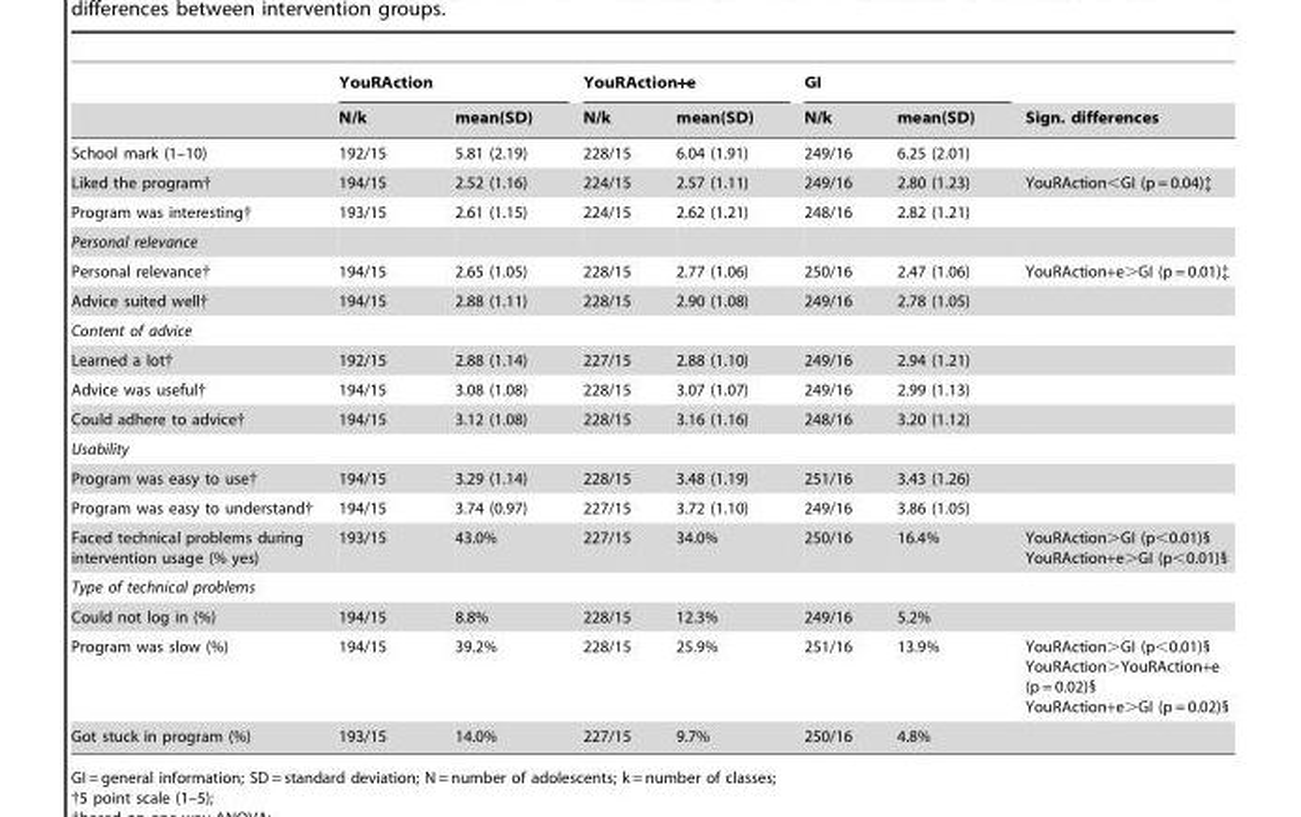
<table><thead><tr><td rowspan="2"></td><td colspan="2">YouRAction</td><td colspan="2">YouRAction+e</td><td colspan="2">GI</td><td rowspan="2">Sign. differences</td></tr><tr><td>N/k</td><td>mean(SD)</td><td>N/k</td><td>mean(SD)</td><td>N/k</td><td>mean(SD)</td></tr></thead><tbody><tr><td>School mark (1–10)</td><td>192/15</td><td>5.81 (2.19)</td><td>228/15</td><td>6.04 (1.91)</td><td>249/16</td><td>6.25 (2.01)</td><td></td></tr><tr><td>Liked the program†</td><td>194/15</td><td>2.52 (1.16)</td><td>224/15</td><td>2.57 (1.11)</td><td>249/16</td><td>2.80 (1.23)</td><td>YouRAction&lt;GI (p = 0.04)‡</td></tr><tr><td>Program was interesting†</td><td>193/15</td><td>2.61 (1.15)</td><td>224/15</td><td>2.62 (1.21)</td><td>248/16</td><td>2.82 (1.21)</td><td></td></tr><tr><td colspan="8">Personal relevance</td></tr><tr><td>Personal relevance†</td><td>194/15</td><td>2.65 (1.05)</td><td>228/15</td><td>2.77 (1.06)</td><td>250/16</td><td>2.47 (1.06)</td><td>YouRAction+e&gt;GI (p = 0.01)‡</td></tr><tr><td>Advice suited well†</td><td>194/15</td><td>2.88 (1.11)</td><td>228/15</td><td>2.90 (1.08)</td><td>249/16</td><td>2.78 (1.05)</td><td></td></tr><tr><td colspan="8">Content of advice</td></tr><tr><td>Learned a lot†</td><td>192/15</td><td>2.88 (1.14)</td><td>227/15</td><td>2.88 (1.10)</td><td>249/16</td><td>2.94 (1.21)</td><td></td></tr><tr><td>Advice was useful†</td><td>194/15</td><td>3.08 (1.08)</td><td>228/15</td><td>3.07 (1.07)</td><td>249/16</td><td>2.99 (1.13)</td><td></td></tr><tr><td>Could adhere to advice†</td><td>194/15</td><td>3.12 (1.08)</td><td>228/15</td><td>3.16 (1.16)</td><td>248/16</td><td>3.20 (1.12)</td><td></td></tr><tr><td colspan="8">Usability</td></tr><tr><td>Program was easy to use†</td><td>194/15</td><td>3.29 (1.14)</td><td>228/15</td><td>3.48 (1.19)</td><td>251/16</td><td>3.43 (1.26)</td><td></td></tr><tr><td>Program was easy to understand†</td><td>194/15</td><td>3.74 (0.97)</td><td>227/15</td><td>3.72 (1.10)</td><td>249/16</td><td>3.86 (1.05)</td><td></td></tr><tr><td>Faced technical problems during intervention usage (% yes)</td><td>193/15</td><td>43.0%</td><td>227/15</td><td>34.0%</td><td>250/16</td><td>16.4%</td><td>YouRAction&gt;GI (p&lt;0.01)§ YouRAction+e&gt;GI (p&lt;0.01)§</td></tr><tr><td colspan="8">Type of technical problems</td></tr><tr><td>Could not log in (%)</td><td>194/15</td><td>8.8%</td><td>228/15</td><td>12.3%</td><td>249/16</td><td>5.2%</td><td></td></tr><tr><td>Program was slow (%)</td><td>194/15</td><td>39.2%</td><td>228/15</td><td>25.9%</td><td>251/16</td><td>13.9%</td><td>YouRAction&gt;GI (p&lt;0.01)§ YouRAction&gt;YouRAction+e (p = 0.02)§ YouRAction+e&gt;GI (p = 0.02)§</td></tr><tr><td>Got stuck in program (%)</td><td>193/15</td><td>14.0%</td><td>227/15</td><td>9.7%</td><td>250/16</td><td>4.8%</td><td></td></tr></tbody></table>